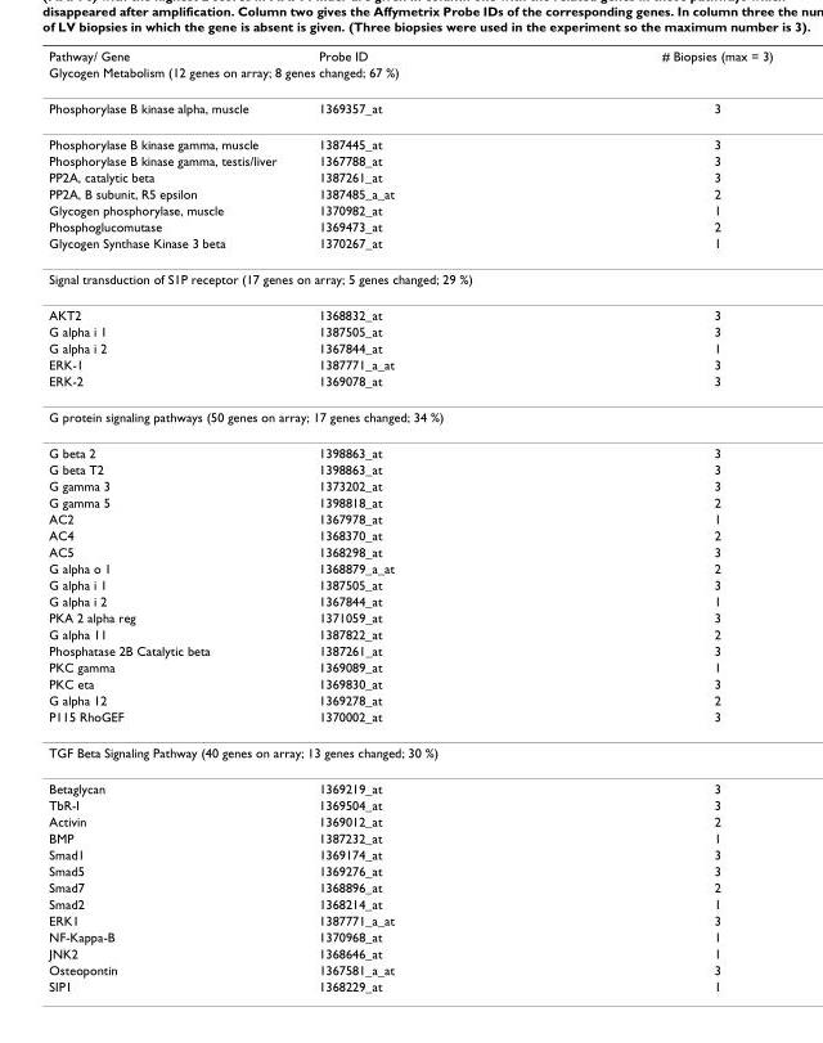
<table><thead><tr><td>Pathway/ Gene</td><td>Probe ID</td><td># Biopsies (max = 3)</td></tr><tr><td colspan="3">Glycogen Metabolism (12 genes on array; 8 genes changed; 67 %)</td></tr></thead><tbody><tr><td>Phosphorylase B kinase alpha, muscle</td><td>1369357_at</td><td>3</td></tr><tr><td>Phosphorylase B kinase gamma, muscle</td><td>1387445_at</td><td>3</td></tr><tr><td>Phosphorylase B kinase gamma, testis/liver</td><td>1367788_at</td><td>3</td></tr><tr><td>PP2A, catalytic beta</td><td>1387261_at</td><td>3</td></tr><tr><td>PP2A, B subunit, R5 epsilon</td><td>1387485_a_at</td><td>2</td></tr><tr><td>Glycogen phosphorylase, muscle</td><td>1370982_at</td><td>1</td></tr><tr><td>Phosphoglucomutase</td><td>1369473_at</td><td>2</td></tr><tr><td>Glycogen Synthase Kinase 3 beta</td><td>1370267_at</td><td>1</td></tr><tr><td colspan="3">Signal transduction of S1P receptor (17 genes on array; 5 genes changed; 29 %)</td></tr><tr><td>AKT2</td><td>1368832_at</td><td>3</td></tr><tr><td>G alpha i 1</td><td>1387505_at</td><td>3</td></tr><tr><td>G alpha i 2</td><td>1367844_at</td><td>1</td></tr><tr><td>ERK-1</td><td>1387771_a_at</td><td>3</td></tr><tr><td>ERK-2</td><td>1369078_at</td><td>3</td></tr><tr><td colspan="3">G protein signaling pathways (50 genes on array; 17 genes changed; 34 %)</td></tr><tr><td>G beta 2</td><td>1398863_at</td><td>3</td></tr><tr><td>G beta T2</td><td>1398863_at</td><td>3</td></tr><tr><td>G gamma 3</td><td>1373202_at</td><td>3</td></tr><tr><td>G gamma 5</td><td>1398818_at</td><td>2</td></tr><tr><td>AC2</td><td>1367978_at</td><td>1</td></tr><tr><td>AC4</td><td>1368370_at</td><td>2</td></tr><tr><td>AC5</td><td>1368298_at</td><td>3</td></tr><tr><td>G alpha o 1</td><td>1368879_a_at</td><td>2</td></tr><tr><td>G alpha i 1</td><td>1387505_at</td><td>3</td></tr><tr><td>G alpha i 2</td><td>1367844_at</td><td>1</td></tr><tr><td>PKA 2 alpha reg</td><td>1371059_at</td><td>3</td></tr><tr><td>G alpha 11</td><td>1387822_at</td><td>2</td></tr><tr><td>Phosphatase 2B Catalytic beta</td><td>1387261_at</td><td>3</td></tr><tr><td>PKC gamma</td><td>1369089_at</td><td>1</td></tr><tr><td>PKC eta</td><td>1369830_at</td><td>3</td></tr><tr><td>G alpha 12</td><td>1369278_at</td><td>2</td></tr><tr><td>P115 RhoGEF</td><td>1370002_at</td><td>3</td></tr><tr><td colspan="3">TGF Beta Signaling Pathway (40 genes on array; 13 genes changed; 30 %)</td></tr><tr><td>Betaglycan</td><td>1369219_at</td><td>3</td></tr><tr><td>TbR-I</td><td>1369504_at</td><td>3</td></tr><tr><td>Activin</td><td>1369012_at</td><td>2</td></tr><tr><td>BMP</td><td>1387232_at</td><td>1</td></tr><tr><td>Smad1</td><td>1369174_at</td><td>3</td></tr><tr><td>Smad5</td><td>1369276_at</td><td>3</td></tr><tr><td>Smad7</td><td>1368896_at</td><td>2</td></tr><tr><td>Smad2</td><td>1368214_at</td><td>1</td></tr><tr><td>ERK1</td><td>1387771_a_at</td><td>3</td></tr><tr><td>NF-Kappa-B</td><td>1370968_at</td><td>1</td></tr><tr><td>JNK2</td><td>1368646_at</td><td>1</td></tr><tr><td>Osteopontin</td><td>1367581_a_at</td><td>3</td></tr><tr><td>SIP1</td><td>1368229_at</td><td>1</td></tr></tbody></table>